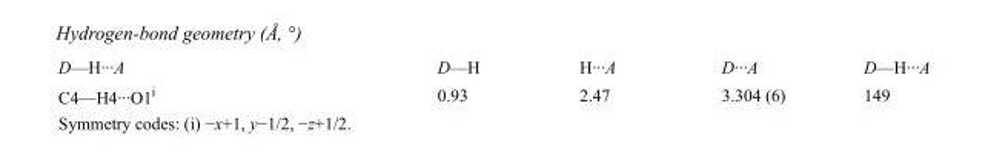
<table><tbody><tr><td>D—H···A</td><td>D—H</td><td>H···A</td><td>D···A</td><td>D—H···A</td></tr><tr><td>C4—H4···O1<sup>i</sup></td><td>0.93</td><td>2.47</td><td>3.304 (6)</td><td>149</td></tr></tbody></table>